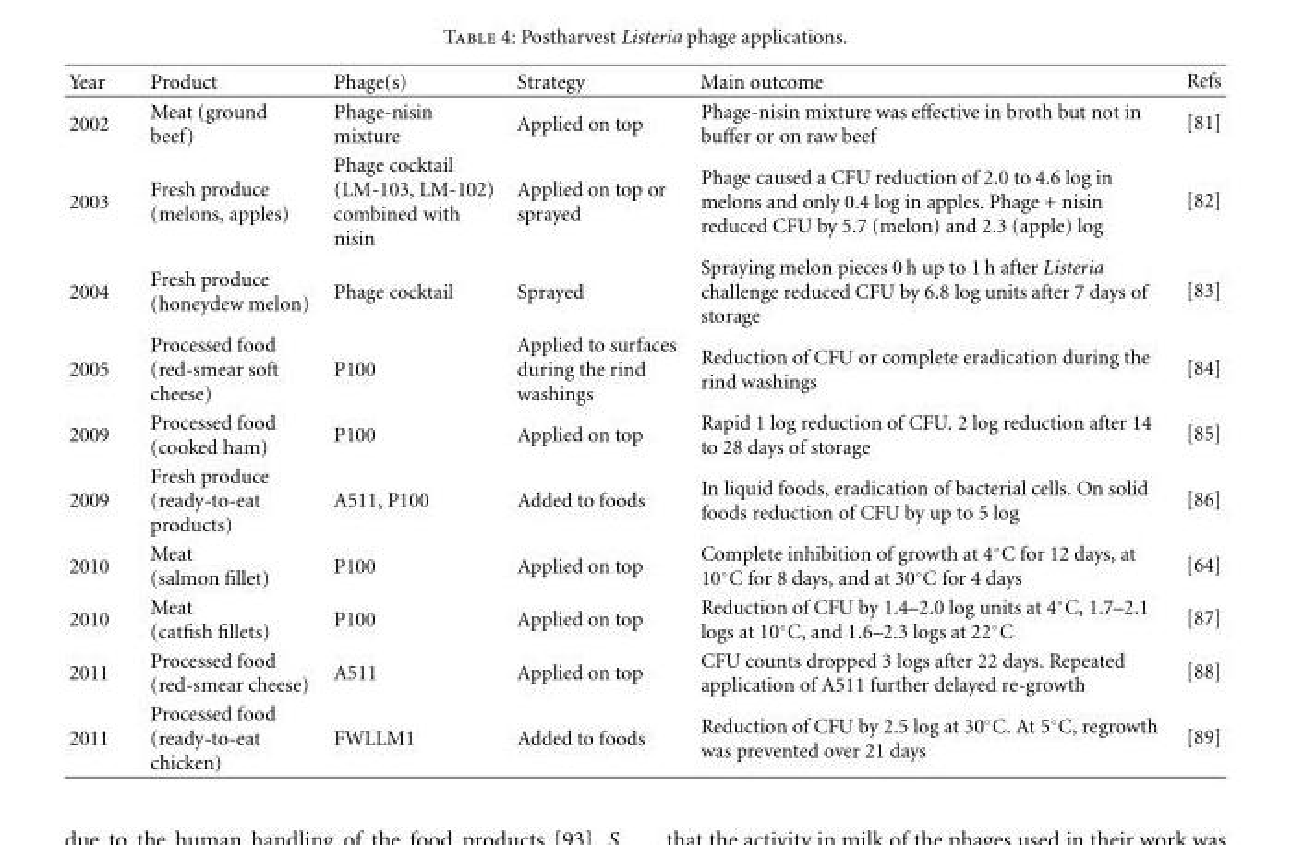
<table><thead><tr><td>Year</td><td>Product</td><td>Phage(s)</td><td>Strategy</td><td>Main outcome</td><td>Refs</td></tr></thead><tbody><tr><td>2002</td><td>Meat (ground beef)</td><td>Phage-nisin mixture</td><td>Applied on top</td><td>Phage-nisin mixture was effective in broth but not in buffer or on raw beef</td><td>[81]</td></tr><tr><td>2003</td><td>Fresh produce (melons, apples)</td><td>Phage cocktail (LM-103, LM-102) combined with nisin</td><td>Applied on top or sprayed</td><td>Phage caused a CFU reduction of 2.0 to 4.6 log in melons and only 0.4 log in apples. Phage + nisin reduced CFU by 5.7 (melon) and 2.3 (apple) log</td><td>[82]</td></tr><tr><td>2004</td><td>Fresh produce (honeydew melon)</td><td>Phage cocktail</td><td>Sprayed</td><td>Spraying melon pieces 0 h up to 1 h after Listeria challenge reduced CFU by 6.8 log units after 7 days of storage</td><td>[83]</td></tr><tr><td>2005</td><td>Processed food (red-smear soft cheese)</td><td>P100</td><td>Applied to surfaces during the rind washings</td><td>Reduction of CFU or complete eradication during the rind washings</td><td>[84]</td></tr><tr><td>2009</td><td>Processed food (cooked ham)</td><td>P100</td><td>Applied on top</td><td>Rapid 1 log reduction of CFU. 2 log reduction after 14 to 28 days of storage</td><td>[85]</td></tr><tr><td>2009</td><td>Fresh produce (ready-to-eat products)</td><td>A511, P100</td><td>Added to foods</td><td>In liquid foods, eradication of bacterial cells. On solid foods reduction of CFU by up to 5 log</td><td>[86]</td></tr><tr><td>2010</td><td>Meat (salmon fillet)</td><td>P100</td><td>Applied on top</td><td>Complete inhibition of growth at 4◦C for 12 days, at 10◦C for 8 days, and at 30◦C for 4 days</td><td>[64]</td></tr><tr><td>2010</td><td>Meat (catfish fillets)</td><td>P100</td><td>Applied on top</td><td>Reduction of CFU by 1.4–2.0 log units at 4◦C, 1.7–2.1 logs at 10◦C, and 1.6–2.3 logs at 22◦C</td><td>[87]</td></tr><tr><td>2011</td><td>Processed food (red-smear cheese)</td><td>A511</td><td>Applied on top</td><td>CFU counts dropped 3 logs after 22 days. Repeated application of A511 further delayed re-growth</td><td>[88]</td></tr><tr><td>2011</td><td>Processed food (ready-to-eat chicken)</td><td>FWLLM1</td><td>Added to foods</td><td>Reduction of CFU by 2.5 log at 30◦C. At 5◦C, regrowth was prevented over 21 days</td><td>[89]</td></tr></tbody></table>